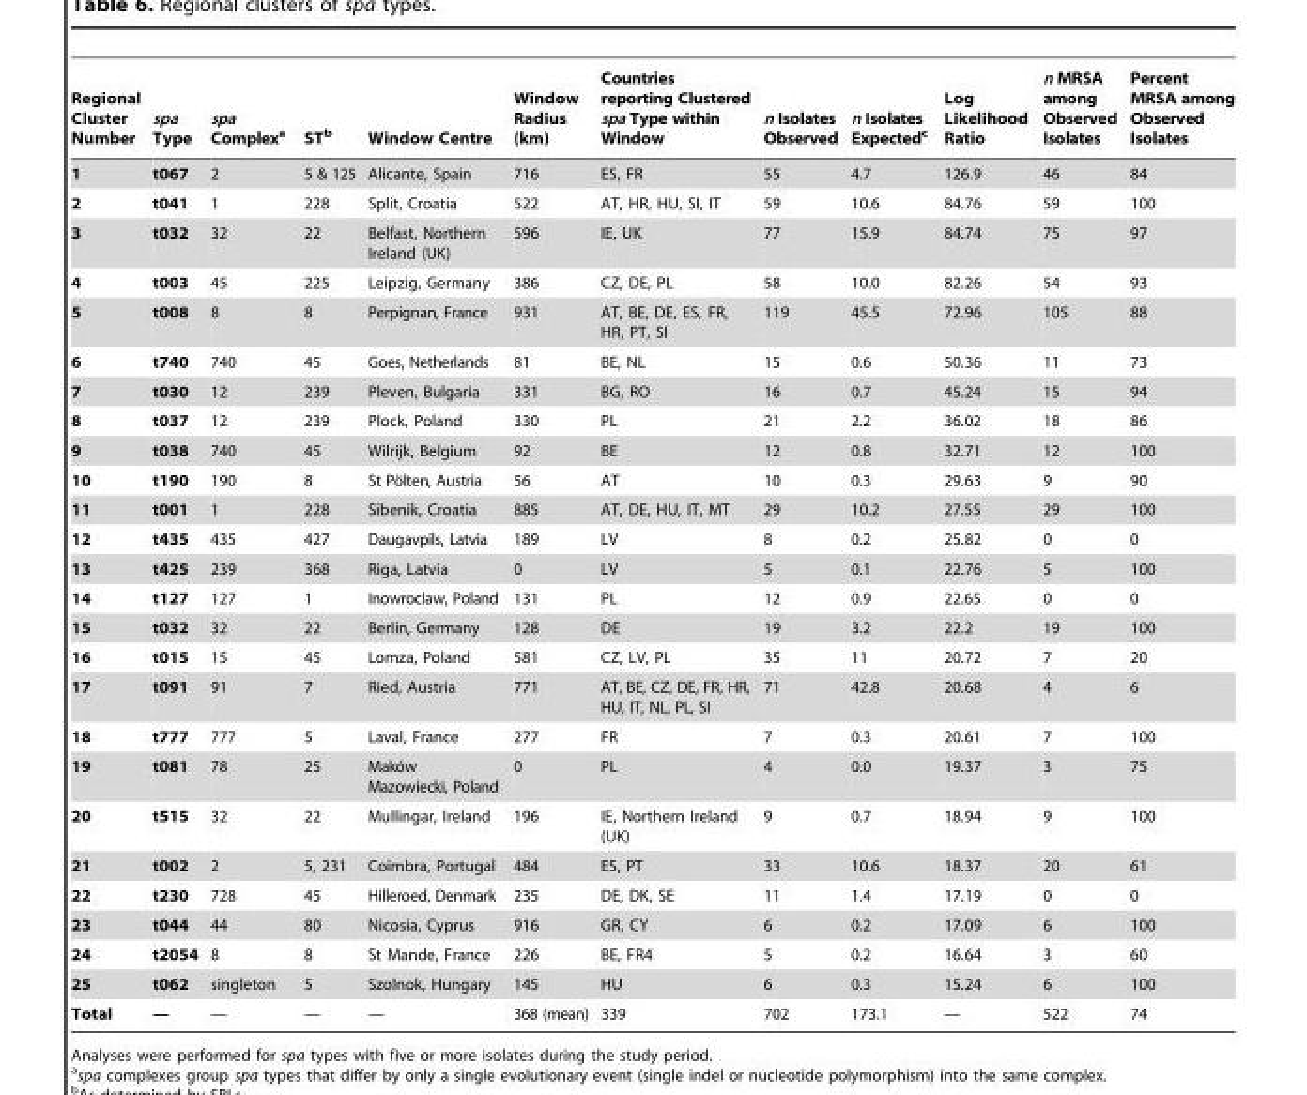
<table><thead><tr><td>Regional Cluster Number</td><td>spa Type</td><td>spa Complex<sup>a</sup></td><td>ST<sup>b</sup></td><td>Window Centre</td><td>Window Radius (km)</td><td>Countries reporting Clustered spa Type within Window</td><td>n Isolates Observed</td><td>n Isolates Expected<sup>c</sup></td><td>Log Likelihood Ratio</td><td>n MRSA among Observed Isolates</td><td>Percent MRSA among Observed Isolates</td></tr></thead><tbody><tr><td>1</td><td>t067</td><td>2</td><td>5 &amp; 125</td><td>Alicante, Spain</td><td>716</td><td>ES, FR</td><td>55</td><td>4.7</td><td>126.9</td><td>46</td><td>84</td></tr><tr><td>2</td><td>t041</td><td>1</td><td>228</td><td>Split, Croatia</td><td>522</td><td>AT, HR, HU, SI, IT</td><td>59</td><td>10.6</td><td>84.76</td><td>59</td><td>100</td></tr><tr><td>3</td><td>t032</td><td>32</td><td>22</td><td>Belfast, Northern Ireland (UK)</td><td>596</td><td>IE, UK</td><td>77</td><td>15.9</td><td>84.74</td><td>75</td><td>97</td></tr><tr><td>4</td><td>t003</td><td>45</td><td>225</td><td>Leipzig, Germany</td><td>386</td><td>CZ, DE, PL</td><td>58</td><td>10.0</td><td>82.26</td><td>54</td><td>93</td></tr><tr><td>5</td><td>t008</td><td>8</td><td>8</td><td>Perpignan, France</td><td>931</td><td>AT, BE, DE, ES, FR, HR, PT, SI</td><td>119</td><td>45.5</td><td>72.96</td><td>105</td><td>88</td></tr><tr><td>6</td><td>t740</td><td>740</td><td>45</td><td>Goes, Netherlands</td><td>81</td><td>BE, NL</td><td>15</td><td>0.6</td><td>50.36</td><td>11</td><td>73</td></tr><tr><td>7</td><td>t030</td><td>12</td><td>239</td><td>Pleven, Bulgaria</td><td>331</td><td>BG, RO</td><td>16</td><td>0.7</td><td>45.24</td><td>15</td><td>94</td></tr><tr><td>8</td><td>t037</td><td>12</td><td>239</td><td>Plock, Poland</td><td>330</td><td>PL</td><td>21</td><td>2.2</td><td>36.02</td><td>18</td><td>86</td></tr><tr><td>9</td><td>t038</td><td>740</td><td>45</td><td>Wilrijk, Belgium</td><td>92</td><td>BE</td><td>12</td><td>0.8</td><td>32.71</td><td>12</td><td>100</td></tr><tr><td>10</td><td>t190</td><td>190</td><td>8</td><td>St Po¨lten, Austria</td><td>56</td><td>AT</td><td>10</td><td>0.3</td><td>29.63</td><td>9</td><td>90</td></tr><tr><td>11</td><td>t001</td><td>1</td><td>228</td><td>Sibenik, Croatia</td><td>885</td><td>AT, DE, HU, IT, MT</td><td>29</td><td>10.2</td><td>27.55</td><td>29</td><td>100</td></tr><tr><td>12</td><td>t435</td><td>435</td><td>427</td><td>Daugavpils, Latvia</td><td>189</td><td>LV</td><td>8</td><td>0.2</td><td>25.82</td><td>0</td><td>0</td></tr><tr><td>13</td><td>t425</td><td>239</td><td>368</td><td>Riga, Latvia</td><td>0</td><td>LV</td><td>5</td><td>0.1</td><td>22.76</td><td>5</td><td>100</td></tr><tr><td>14</td><td>t127</td><td>127</td><td>1</td><td>Inowroclaw, Poland</td><td>131</td><td>PL</td><td>12</td><td>0.9</td><td>22.65</td><td>0</td><td>0</td></tr><tr><td>15</td><td>t032</td><td>32</td><td>22</td><td>Berlin, Germany</td><td>128</td><td>DE</td><td>19</td><td>3.2</td><td>22.2</td><td>19</td><td>100</td></tr><tr><td>16</td><td>t015</td><td>15</td><td>45</td><td>Lomza, Poland</td><td>581</td><td>CZ, LV, PL</td><td>35</td><td>11</td><td>20.72</td><td>7</td><td>20</td></tr><tr><td>17</td><td>t091</td><td>91</td><td>7</td><td>Ried, Austria</td><td>771</td><td>AT, BE, CZ, DE, FR, HR, HU, IT, NL, PL, SI</td><td>71</td><td>42.8</td><td>20.68</td><td>4</td><td>6</td></tr><tr><td>18</td><td>t777</td><td>777</td><td>5</td><td>Laval, France</td><td>277</td><td>FR</td><td>7</td><td>0.3</td><td>20.61</td><td>7</td><td>100</td></tr><tr><td>19</td><td>t081</td><td>78</td><td>25</td><td>Mako´w Mazowiecki, Poland</td><td>0</td><td>PL</td><td>4</td><td>0.0</td><td>19.37</td><td>3</td><td>75</td></tr><tr><td>20</td><td>t515</td><td>32</td><td>22</td><td>Mullingar, Ireland</td><td>196</td><td>IE, Northern Ireland (UK)</td><td>9</td><td>0.7</td><td>18.94</td><td>9</td><td>100</td></tr><tr><td>21</td><td>t002</td><td>2</td><td>5, 231</td><td>Coimbra, Portugal</td><td>484</td><td>ES, PT</td><td>33</td><td>10.6</td><td>18.37</td><td>20</td><td>61</td></tr><tr><td>22</td><td>t230</td><td>728</td><td>45</td><td>Hilleroed, Denmark</td><td>235</td><td>DE, DK, SE</td><td>11</td><td>1.4</td><td>17.19</td><td>0</td><td>0</td></tr><tr><td>23</td><td>t044</td><td>44</td><td>80</td><td>Nicosia, Cyprus</td><td>916</td><td>GR, CY</td><td>6</td><td>0.2</td><td>17.09</td><td>6</td><td>100</td></tr><tr><td>24</td><td>t2054</td><td>8</td><td>8</td><td>St Mande, France</td><td>226</td><td>BE, FR4</td><td>5</td><td>0.2</td><td>16.64</td><td>3</td><td>60</td></tr><tr><td>25</td><td>t062</td><td>singleton</td><td>5</td><td>Szolnok, Hungary</td><td>145</td><td>HU</td><td>6</td><td>0.3</td><td>15.24</td><td>6</td><td>100</td></tr><tr><td>Total</td><td>—</td><td>—</td><td>—</td><td>—</td><td>368 (mean)</td><td>339</td><td>702</td><td>173.1</td><td>—</td><td>522</td><td>74</td></tr></tbody></table>